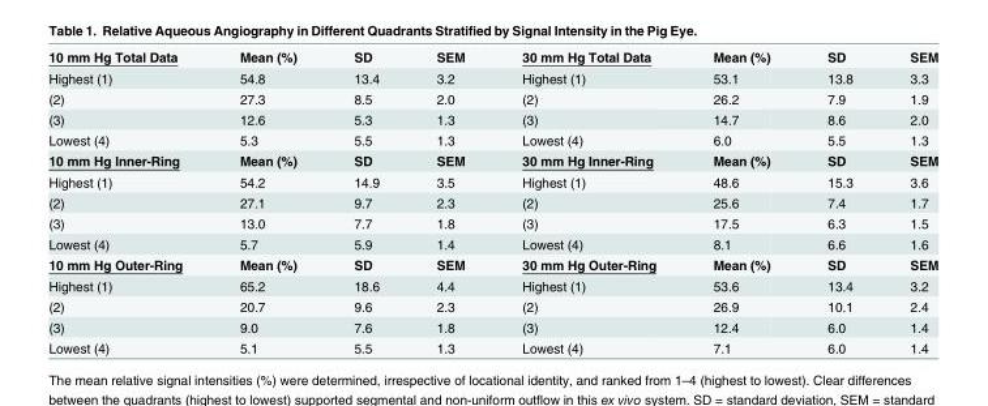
<table><tbody><tr><td>10 mm Hg Total Data</td><td>Mean (%)</td><td>SD</td><td>SEM</td><td>30 mm Hg Total Data</td><td>Mean (%)</td><td>SD</td><td>SEM</td></tr><tr><td>Highest (1)</td><td>54.8</td><td>13.4</td><td>3.2</td><td>Highest (1)</td><td>53.1</td><td>13.8</td><td>3.3</td></tr><tr><td>(2)</td><td>27.3</td><td>8.5</td><td>2.0</td><td>(2)</td><td>26.2</td><td>7.9</td><td>1.9</td></tr><tr><td>(3)</td><td>12.6</td><td>5.3</td><td>1.3</td><td>(3)</td><td>14.7</td><td>8.6</td><td>2.0</td></tr><tr><td>Lowest (4)</td><td>5.3</td><td>5.5</td><td>1.3</td><td>Lowest (4)</td><td>6.0</td><td>5.5</td><td>1.3</td></tr><tr><td>10 mm Hg Inner-Ring</td><td>Mean (%)</td><td>SD</td><td>SEM</td><td>30 mm Hg Inner-Ring</td><td>Mean (%)</td><td>SD</td><td>SEM</td></tr><tr><td>Highest (1)</td><td>54.2</td><td>14.9</td><td>3.5</td><td>Highest (1)</td><td>48.6</td><td>15.3</td><td>3.6</td></tr><tr><td>(2)</td><td>27.1</td><td>9.7</td><td>2.3</td><td>(2)</td><td>25.6</td><td>7.4</td><td>1.7</td></tr><tr><td>(3)</td><td>13.0</td><td>7.7</td><td>1.8</td><td>(3)</td><td>17.5</td><td>6.3</td><td>1.5</td></tr><tr><td>Lowest (4)</td><td>5.7</td><td>5.9</td><td>1.4</td><td>Lowest (4)</td><td>8.1</td><td>6.6</td><td>1.6</td></tr><tr><td>10 mm Hg Outer-Ring</td><td>Mean (%)</td><td>SD</td><td>SEM</td><td>30 mm Hg Outer-Ring</td><td>Mean (%)</td><td>SD</td><td>SEM</td></tr><tr><td>Highest (1)</td><td>65.2</td><td>18.6</td><td>4.4</td><td>Highest (1)</td><td>53.6</td><td>13.4</td><td>3.2</td></tr><tr><td>(2)</td><td>20.7</td><td>9.6</td><td>2.3</td><td>(2)</td><td>26.9</td><td>10.1</td><td>2.4</td></tr><tr><td>(3)</td><td>9.0</td><td>7.6</td><td>1.8</td><td>(3)</td><td>12.4</td><td>6.0</td><td>1.4</td></tr><tr><td>Lowest (4)</td><td>5.1</td><td>5.5</td><td>1.3</td><td>Lowest (4)</td><td>7.1</td><td>6.0</td><td>1.4</td></tr></tbody></table>